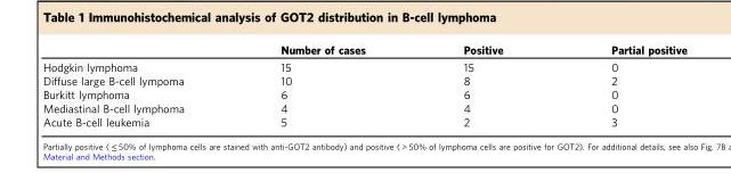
<table><thead><tr><td></td><td>Number of cases</td><td>Positive</td><td>Partial positive</td></tr></thead><tbody><tr><td>Hodgkin lymphoma</td><td>15</td><td>15</td><td>0</td></tr><tr><td>Diffuse large B-cell lympoma</td><td>10</td><td>8</td><td>2</td></tr><tr><td>Burkitt lymphoma</td><td>6</td><td>6</td><td>0</td></tr><tr><td>Mediastinal B-cell lymphoma</td><td>4</td><td>4</td><td>0</td></tr><tr><td>Acute B-cell leukemia</td><td>5</td><td>2</td><td>3</td></tr></tbody></table>